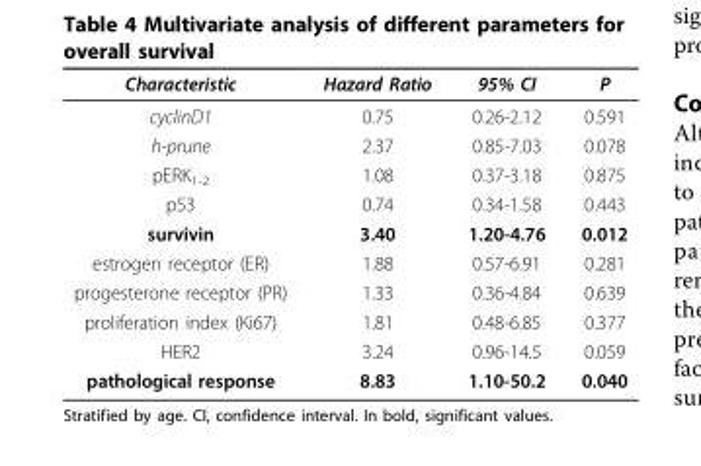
<table><thead><tr><td>Characteristic</td><td>Hazard Ratio</td><td>95% CI</td><td>P</td></tr></thead><tbody><tr><td>cyclinD1</td><td>0.75</td><td>0.26-2.12</td><td>0.591</td></tr><tr><td>h-prune</td><td>2.37</td><td>0.85-7.03</td><td>0.078</td></tr><tr><td>pERK<sub>1-2</sub></td><td>1.08</td><td>0.37-3.18</td><td>0.875</td></tr><tr><td>p53</td><td>0.74</td><td>0.34-1.58</td><td>0.443</td></tr><tr><td>survivin</td><td>3.40</td><td>1.20-4.76</td><td>0.012</td></tr><tr><td>estrogen receptor (ER)</td><td>1.88</td><td>0.57-6.91</td><td>0.281</td></tr><tr><td>progesterone receptor (PR)</td><td>1.33</td><td>0.36-4.84</td><td>0.639</td></tr><tr><td>proliferation index (Ki67)</td><td>1.81</td><td>0.48-6.85</td><td>0.377</td></tr><tr><td>HER2</td><td>3.24</td><td>0.96-14.5</td><td>0.059</td></tr><tr><td>pathological response</td><td>8.83</td><td>1.10-50.2</td><td>0.040</td></tr></tbody></table>